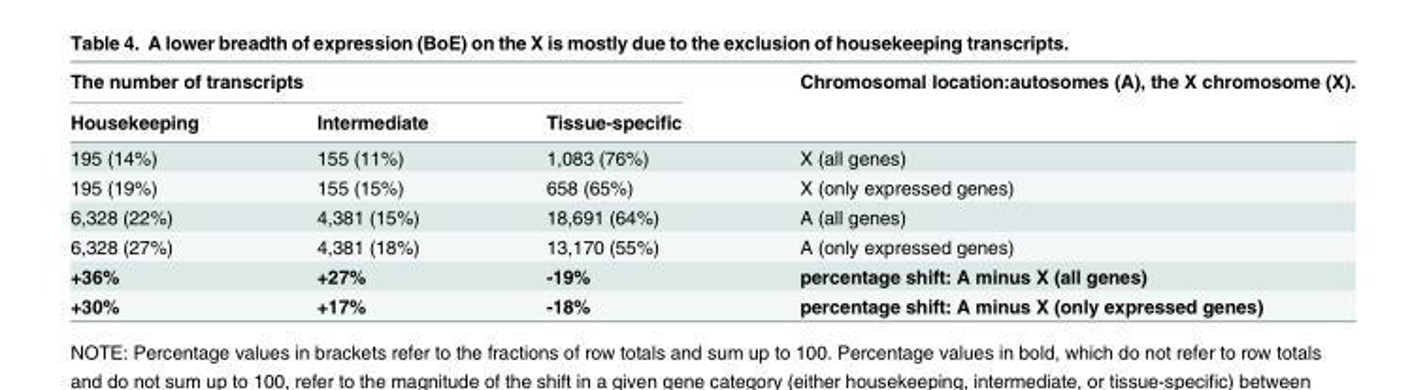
<table><thead><tr><td colspan="3">The number of transcripts</td><td rowspan="2">Chromosomal location:autosomes (A), the X chromosome (X).</td></tr><tr><td>Housekeeping</td><td>Intermediate</td><td>Tissue-specific</td></tr></thead><tbody><tr><td>195 (14%)</td><td>155 (11%)</td><td>1,083 (76%)</td><td>X (all genes)</td></tr><tr><td>195 (19%)</td><td>155 (15%)</td><td>658 (65%)</td><td>X (only expressed genes)</td></tr><tr><td>6,328 (22%)</td><td>4,381 (15%)</td><td>18,691 (64%)</td><td>A (all genes)</td></tr><tr><td>6,328 (27%)</td><td>4,381 (18%)</td><td>13,170 (55%)</td><td>A (only expressed genes)</td></tr><tr><td>+36%</td><td>+27%</td><td>-19%</td><td>percentage shift: A minus X (all genes)</td></tr><tr><td>+30%</td><td>+17%</td><td>-18%</td><td>percentage shift: A minus X (only expressed genes)</td></tr></tbody></table>